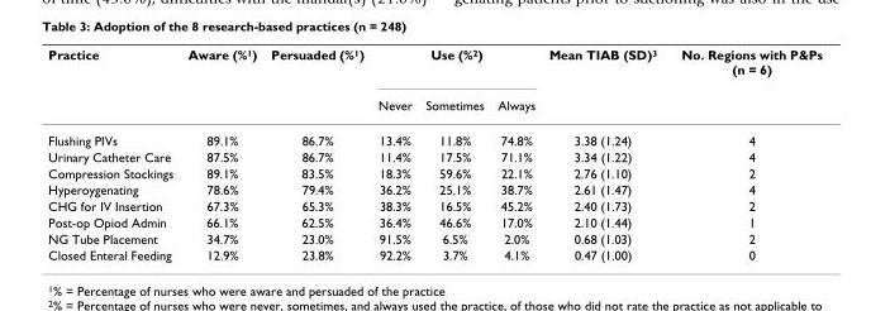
<table><thead><tr><td rowspan="2">Practice</td><td rowspan="2">Aware (%<sup>1</sup>)</td><td rowspan="2">Persuaded (%<sup>1</sup>)</td><td colspan="3">Use (%<sup>2</sup>)</td><td rowspan="2">Mean TIAB (SD)<sup>3</sup></td><td rowspan="2">No. Regions with P&amp;Ps (n = 6)</td></tr><tr><td>Never</td><td>Sometimes</td><td>Always</td></tr></thead><tbody><tr><td>Flushing PIVs</td><td>89.1%</td><td>86.7%</td><td>13.4%</td><td>11.8%</td><td>74.8%</td><td>3.38 (1.24)</td><td>4</td></tr><tr><td>Urinary Catheter Care</td><td>87.5%</td><td>86.7%</td><td>11.4%</td><td>17.5%</td><td>71.1%</td><td>3.34 (1.22)</td><td>4</td></tr><tr><td>Compression Stockings</td><td>89.1%</td><td>83.5%</td><td>18.3%</td><td>59.6%</td><td>22.1%</td><td>2.76 (1.10)</td><td>2</td></tr><tr><td>Hyperoygenating</td><td>78.6%</td><td>79.4%</td><td>36.2%</td><td>25.1%</td><td>38.7%</td><td>2.61 (1.47)</td><td>4</td></tr><tr><td>CHG for IV Insertion</td><td>67.3%</td><td>65.3%</td><td>38.3%</td><td>16.5%</td><td>45.2%</td><td>2.40 (1.73)</td><td>2</td></tr><tr><td>Post-op Opiod Admin</td><td>66.1%</td><td>62.5%</td><td>36.4%</td><td>46.6%</td><td>17.0%</td><td>2.10 (1.44)</td><td>1</td></tr><tr><td>NG Tube Placement</td><td>34.7%</td><td>23.0%</td><td>91.5%</td><td>6.5%</td><td>2.0%</td><td>0.68 (1.03)</td><td>2</td></tr><tr><td>Closed Enteral Feeding</td><td>12.9%</td><td>23.8%</td><td>92.2%</td><td>3.7%</td><td>4.1%</td><td>0.47 (1.00)</td><td>0</td></tr></tbody></table>